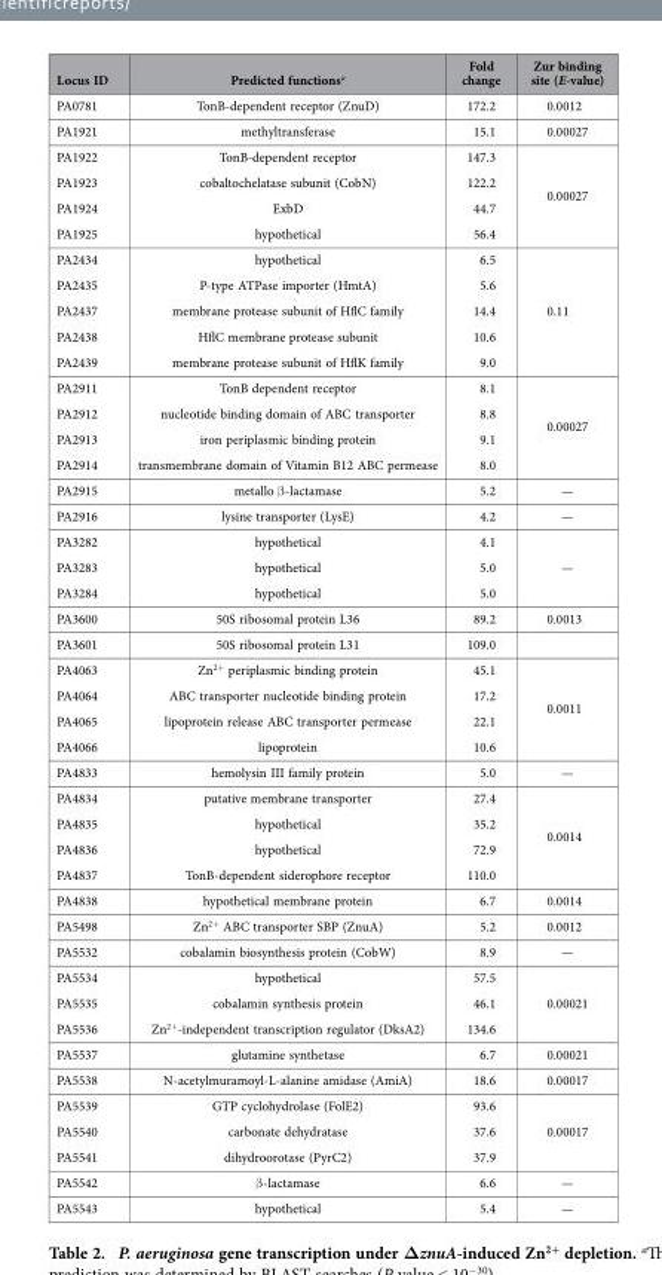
<table><thead><tr><td>Locus ID</td><td>Predicted functions<sup>a</sup></td><td>Fold change</td><td>Zur binding site (E-value)</td></tr></thead><tbody><tr><td>PA0781</td><td>TonB-dependent receptor (ZnuD)</td><td>172.2</td><td>0.0012</td></tr><tr><td>PA1921</td><td>methyltransferase</td><td>15.1</td><td>0.00027</td></tr><tr><td>PA1922</td><td>TonB-dependent receptor</td><td>147.3</td><td rowspan="4">0.00027</td></tr><tr><td>PA1923</td><td>cobaltochelatase subunit (CobN)</td><td>122.2</td></tr><tr><td>PA1924</td><td>ExbD</td><td>44.7</td></tr><tr><td>PA1925</td><td>hypothetical</td><td>56.4</td></tr><tr><td>PA2434</td><td>hypothetical</td><td>6.5</td><td rowspan="5">0.11</td></tr><tr><td>PA2435</td><td>P-type ATPase importer (HmtA)</td><td>5.6</td></tr><tr><td>PA2437</td><td>membrane protease subunit of HflC family</td><td>14.4</td></tr><tr><td>PA2438</td><td>HflC membrane protease subunit</td><td>10.6</td></tr><tr><td>PA2439</td><td>membrane protease subunit of HflK family</td><td>9.0</td></tr><tr><td>PA2911</td><td>TonB dependent receptor</td><td>8.1</td><td rowspan="4">0.00027</td></tr><tr><td>PA2912</td><td>nucleotide binding domain of ABC transporter</td><td>8.8</td></tr><tr><td>PA2913</td><td>iron periplasmic binding protein</td><td>9.1</td></tr><tr><td>PA2914</td><td>transmembrane domain of Vitamin B12 ABC permease</td><td>8.0</td></tr><tr><td>PA2915</td><td>metallo β -lactamase</td><td>5.2</td><td>—</td></tr><tr><td>PA2916</td><td>lysine transporter (LysE)</td><td>4.2</td><td>—</td></tr><tr><td>PA3282</td><td>hypothetical</td><td>4.1</td><td rowspan="3">—</td></tr><tr><td>PA3283</td><td>hypothetical</td><td>5.0</td></tr><tr><td>PA3284</td><td>hypothetical</td><td>5.0</td></tr><tr><td>PA3600</td><td>50S ribosomal protein L36</td><td>89.2</td><td>0.0013</td></tr><tr><td>PA3601</td><td>50S ribosomal protein L31</td><td>109.0</td><td></td></tr><tr><td>PA4063</td><td>Zn<sup>2+</sup> periplasmic binding protein</td><td>45.1</td><td rowspan="4">0.0011</td></tr><tr><td>PA4064</td><td>ABC transporter nucleotide binding protein</td><td>17.2</td></tr><tr><td>PA4065</td><td>lipoprotein release ABC transporter permease</td><td>22.1</td></tr><tr><td>PA4066</td><td>lipoprotein</td><td>10.6</td></tr><tr><td>PA4833</td><td>hemolysin III family protein</td><td>5.0</td><td>—</td></tr><tr><td>PA4834</td><td>putative membrane transporter</td><td>27.4</td><td rowspan="4">0.0014</td></tr><tr><td>PA4835</td><td>hypothetical</td><td>35.2</td></tr><tr><td>PA4836</td><td>hypothetical</td><td>72.9</td></tr><tr><td>PA4837</td><td>TonB-dependent siderophore receptor</td><td>110.0</td></tr><tr><td>PA4838</td><td>hypothetical membrane protein</td><td>6.7</td><td>0.0014</td></tr><tr><td>PA5498</td><td>Zn<sup>2+</sup> ABC transporter SBP (ZnuA)</td><td>5.2</td><td>0.0012</td></tr><tr><td>PA5532</td><td>cobalamin biosynthesis protein (CobW)</td><td>8.9</td><td>—</td></tr><tr><td>PA5534</td><td>hypothetical</td><td>57.5</td><td rowspan="3">0.00021</td></tr><tr><td>PA5535</td><td>cobalamin synthesis protein</td><td>46.1</td></tr><tr><td>PA5536</td><td>Zn<sup>2+</sup>-independent transcription regulator (DksA2)</td><td>134.6</td></tr><tr><td>PA5537</td><td>glutamine synthetase</td><td>6.7</td><td>0.00021</td></tr><tr><td>PA5538</td><td>N-acetylmuramoyl-L-alanine amidase (AmiA)</td><td>18.6</td><td>0.00017</td></tr><tr><td>PA5539</td><td>GTP cyclohydrolase (FolE2)</td><td>93.6</td><td rowspan="3">0.00017</td></tr><tr><td>PA5540</td><td>carbonate dehydratase</td><td>37.6</td></tr><tr><td>PA5541</td><td>dihydroorotase (PyrC2)</td><td>37.9</td></tr><tr><td>PA5542</td><td>β -lactamase</td><td>6.6</td><td>—</td></tr><tr><td>PA5543</td><td>hypothetical</td><td>5.4</td><td>—</td></tr></tbody></table>